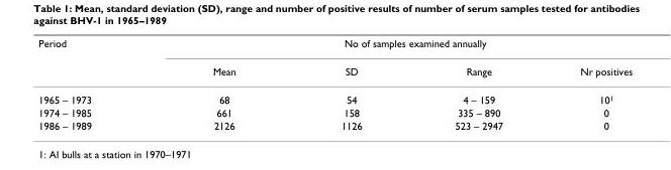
<table><thead><tr><td rowspan="2">Period</td><td colspan="4">No of samples examined annually</td></tr><tr><td>Mean</td><td>SD</td><td>Range</td><td>Nr positives</td></tr></thead><tbody><tr><td>1965 – 1973</td><td>68</td><td>54</td><td>4 – 159</td><td>10<sup>1</sup></td></tr><tr><td>1974 – 1985</td><td>661</td><td>158</td><td>335 – 890</td><td>0</td></tr><tr><td>1986 – 1989</td><td>2126</td><td>1126</td><td>523 – 2947</td><td>0</td></tr></tbody></table>